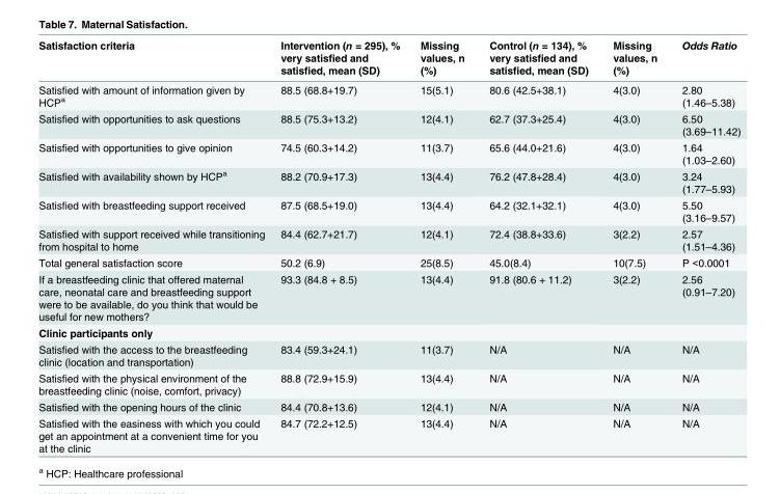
<table><thead><tr><td>Satisfaction criteria</td><td>Intervention (n = 295), % very satisfied and satisfied, mean (SD)</td><td>Missing values, n (%)</td><td>Control (n = 134), % very satisfied and satisfied, mean (SD)</td><td>Missing values, n (%)</td><td>Odds Ratio</td></tr></thead><tbody><tr><td>Satisfied with amount of information given by HCP<sup>a</sup></td><td>88.5 (68.8+19.7)</td><td>15(5.1)</td><td>80.6 (42.5+38.1)</td><td>4(3.0)</td><td>2.80 (1.46–5.38)</td></tr><tr><td>Satisfied with opportunities to ask questions</td><td>88.5 (75.3+13.2)</td><td>12(4.1)</td><td>62.7 (37.3+25.4)</td><td>4(3.0)</td><td>6.50 (3.69–11.42)</td></tr><tr><td>Satisfied with opportunities to give opinion</td><td>74.5 (60.3+14.2)</td><td>11(3.7)</td><td>65.6 (44.0+21.6)</td><td>4(3.0)</td><td>1.64 (1.03–2.60)</td></tr><tr><td>Satisfied with availability shown by HCP<sup>a</sup></td><td>88.2 (70.9+17.3)</td><td>13(4.4)</td><td>76.2 (47.8+28.4)</td><td>4(3.0)</td><td>3.24 (1.77–5.93)</td></tr><tr><td>Satisfied with breastfeeding support received</td><td>87.5 (68.5+19.0)</td><td>13(4.4)</td><td>64.2 (32.1+32.1)</td><td>4(3.0)</td><td>5.50 (3.16–9.57)</td></tr><tr><td>Satisfied with support received while transitioning from hospital to home</td><td>84.4 (62.7+21.7)</td><td>12(4.1)</td><td>72.4 (38.8+33.6)</td><td>3(2.2)</td><td>2.57 (1.51–4.36)</td></tr><tr><td>Total general satisfaction score</td><td>50.2 (6.9)</td><td>25(8.5)</td><td>45.0(8.4)</td><td>10(7.5)</td><td>P &lt;0.0001</td></tr><tr><td>If a breastfeeding clinic that offered maternal care, neonatal care and breastfeeding support were to be available, do you think that would be useful for new mothers?</td><td>93.3 (84.8 + 8.5)</td><td>13(4.4)</td><td>91.8 (80.6 + 11.2)</td><td>3(2.2)</td><td>2.56 (0.91–7.20)</td></tr><tr><td colspan="6">Clinic participants only</td></tr><tr><td>Satisfied with the access to the breastfeeding clinic (location and transportation)</td><td>83.4 (59.3+24.1)</td><td>11(3.7)</td><td>N/A</td><td>N/A</td><td>N/A</td></tr><tr><td>Satisfied with the physical environment of the breastfeeding clinic (noise, comfort, privacy)</td><td>88.8 (72.9+15.9)</td><td>13(4.4)</td><td>N/A</td><td>N/A</td><td>N/A</td></tr><tr><td>Satisfied with the opening hours of the clinic</td><td>84.4 (70.8+13.6)</td><td>12(4.1)</td><td>N/A</td><td>N/A</td><td>N/A</td></tr><tr><td>Satisfied with the easiness with which you could get an appointment at a convenient time for you at the clinic</td><td>84.7 (72.2+12.5)</td><td>13(4.4)</td><td>N/A</td><td>N/A</td><td>N/A</td></tr></tbody></table>